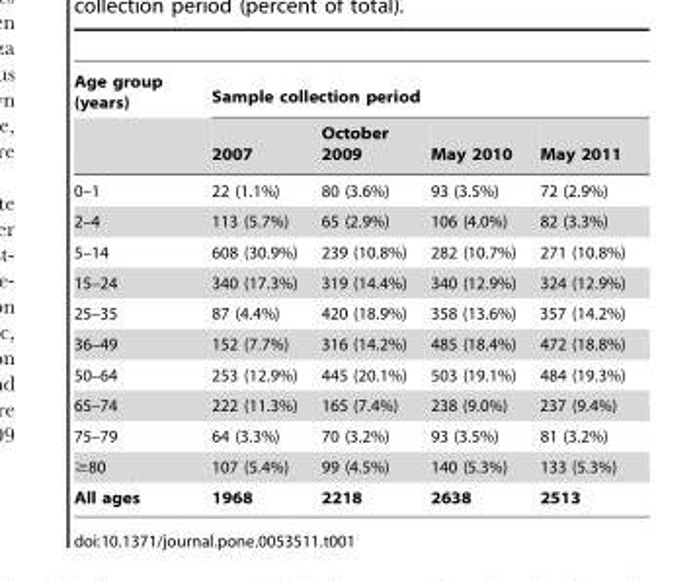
<table><thead><tr><td rowspan="2">Age group (years)</td><td colspan="4">Sample collection period</td></tr><tr><td>2007</td><td>October 2009</td><td>May 2010</td><td>May 2011</td></tr></thead><tbody><tr><td>0–1</td><td>22 (1.1%)</td><td>80 (3.6%)</td><td>93 (3.5%)</td><td>72 (2.9%)</td></tr><tr><td>2–4</td><td>113 (5.7%)</td><td>65 (2.9%)</td><td>106 (4.0%)</td><td>82 (3.3%)</td></tr><tr><td>5–14</td><td>608 (30.9%)</td><td>239 (10.8%)</td><td>282 (10.7%)</td><td>271 (10.8%)</td></tr><tr><td>15–24</td><td>340 (17.3%)</td><td>319 (14.4%)</td><td>340 (12.9%)</td><td>324 (12.9%)</td></tr><tr><td>25–35</td><td>87 (4.4%)</td><td>420 (18.9%)</td><td>358 (13.6%)</td><td>357 (14.2%)</td></tr><tr><td>36–49</td><td>152 (7.7%)</td><td>316 (14.2%)</td><td>485 (18.4%)</td><td>472 (18.8%)</td></tr><tr><td>50–64</td><td>253 (12.9%)</td><td>445 (20.1%)</td><td>503 (19.1%)</td><td>484 (19.3%)</td></tr><tr><td>65–74</td><td>222 (11.3%)</td><td>165 (7.4%)</td><td>238 (9.0%)</td><td>237 (9.4%)</td></tr><tr><td>75–79</td><td>64 (3.3%)</td><td>70 (3.2%)</td><td>93 (3.5%)</td><td>81 (3.2%)</td></tr><tr><td>≥80</td><td>107 (5.4%)</td><td>99 (4.5%)</td><td>140 (5.3%)</td><td>133 (5.3%)</td></tr><tr><td>All ages</td><td>1968</td><td>2218</td><td>2638</td><td>2513</td></tr></tbody></table>